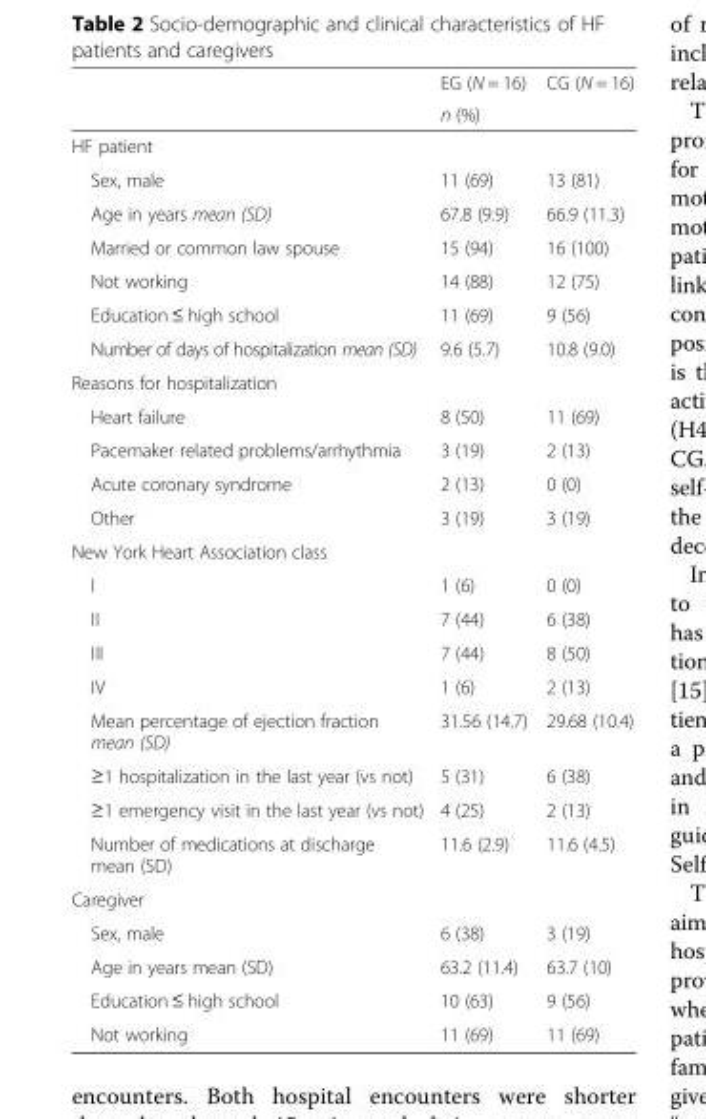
<table><thead><tr><td rowspan="2"></td><td>EG (N = 16)</td><td>CG (N = 16)</td></tr><tr><td colspan="2">n (%)</td></tr></thead><tbody><tr><td colspan="3">HF patient</td></tr><tr><td>Sex, male</td><td>11 (69)</td><td>13 (81)</td></tr><tr><td>Age in years mean (SD)</td><td>67.8 (9.9)</td><td>66.9 (11.3)</td></tr><tr><td>Married or common law spouse</td><td>15 (94)</td><td>16 (100)</td></tr><tr><td>Not working</td><td>14 (88)</td><td>12 (75)</td></tr><tr><td>Education ≤ high school</td><td>11 (69)</td><td>9 (56)</td></tr><tr><td>Number of days of hospitalization mean (SD)</td><td>9.6 (5.7)</td><td>10.8 (9.0)</td></tr><tr><td colspan="3">Reasons for hospitalization</td></tr><tr><td>Heart failure</td><td>8 (50)</td><td>11 (69)</td></tr><tr><td>Pacemaker related problems/arrhythmia</td><td>3 (19)</td><td>2 (13)</td></tr><tr><td>Acute coronary syndrome</td><td>2 (13)</td><td>0 (0)</td></tr><tr><td>Other</td><td>3 (19)</td><td>3 (19)</td></tr><tr><td colspan="3">New York Heart Association class</td></tr><tr><td>I</td><td>1 (6)</td><td>0 (0)</td></tr><tr><td>II</td><td>7 (44)</td><td>6 (38)</td></tr><tr><td>III</td><td>7 (44)</td><td>8 (50)</td></tr><tr><td>IV</td><td>1 (6)</td><td>2 (13)</td></tr><tr><td>Mean percentage of ejection fraction mean (SD)</td><td>31.56 (14.7)</td><td>29.68 (10.4)</td></tr><tr><td>≥1 hospitalization in the last year (vs not)</td><td>5 (31)</td><td>6 (38)</td></tr><tr><td>≥1 emergency visit in the last year (vs not)</td><td>4 (25)</td><td>2 (13)</td></tr><tr><td>Number of medications at discharge mean (SD)</td><td>11.6 (2.9)</td><td>11.6 (4.5)</td></tr><tr><td colspan="3">Caregiver</td></tr><tr><td>Sex, male</td><td>6 (38)</td><td>3 (19)</td></tr><tr><td>Age in years mean (SD)</td><td>63.2 (11.4)</td><td>63.7 (10)</td></tr><tr><td>Education ≤ high school</td><td>10 (63)</td><td>9 (56)</td></tr><tr><td>Not working</td><td>11 (69)</td><td>11 (69)</td></tr></tbody></table>